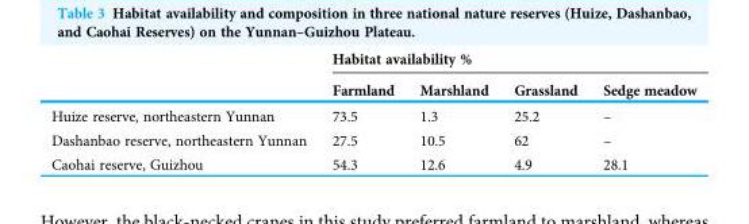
<table><thead><tr><td rowspan="2"></td><td colspan="4">Habitat availability %</td></tr><tr><td>Farmland</td><td>Marshland</td><td>Grassland</td><td>Sedge meadow</td></tr></thead><tbody><tr><td>Huize reserve, northeastern Yunnan</td><td>73.5</td><td>1.3</td><td>25.2</td><td>–</td></tr><tr><td>Dashanbao reserve, northeastern Yunnan</td><td>27.5</td><td>10.5</td><td>62</td><td>–</td></tr><tr><td>Caohai reserve, Guizhou</td><td>54.3</td><td>12.6</td><td>4.9</td><td>28.1</td></tr></tbody></table>